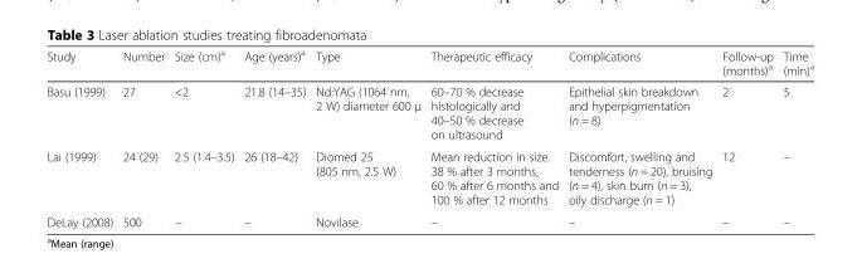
<table><thead><tr><td>Study</td><td>Number</td><td>Size (cm)<sup>a</sup></td><td>Age (years)<sup>a</sup></td><td>Type</td><td>Therapeutic efficacy</td><td>Complications</td><td>Follow-up (months)<sup>a</sup></td><td>Time (min)<sup>a</sup></td></tr></thead><tbody><tr><td>Basu (1999)</td><td>27</td><td>&lt;2</td><td>21.8 (14–35)</td><td>Nd:YAG (1064 nm, 2 W) diameter 600 μ</td><td>60–70 % decrease histologically and 40–50 % decrease on ultrasound</td><td>Epithelial skin breakdown and hyperpigmentation (n = 8)</td><td>2</td><td>5</td></tr><tr><td>Lai (1999)</td><td>24 (29)</td><td>2.5 (1.4–3.5)</td><td>26 (18–42)</td><td>Diomed 25 (805 nm, 2.5 W)</td><td>Mean reduction in size 38 % after 3 months, 60 % after 6 months and 100 % after 12 months</td><td>Discomfort, swelling and tenderness (n = 20), bruising (n = 4), skin burn (n = 3), oily discharge (n = 1)</td><td>12</td><td>–</td></tr><tr><td>DeLay (2008)</td><td>500</td><td>–</td><td>–</td><td>Novilase</td><td>–</td><td>–</td><td>–</td><td>–</td></tr></tbody></table>